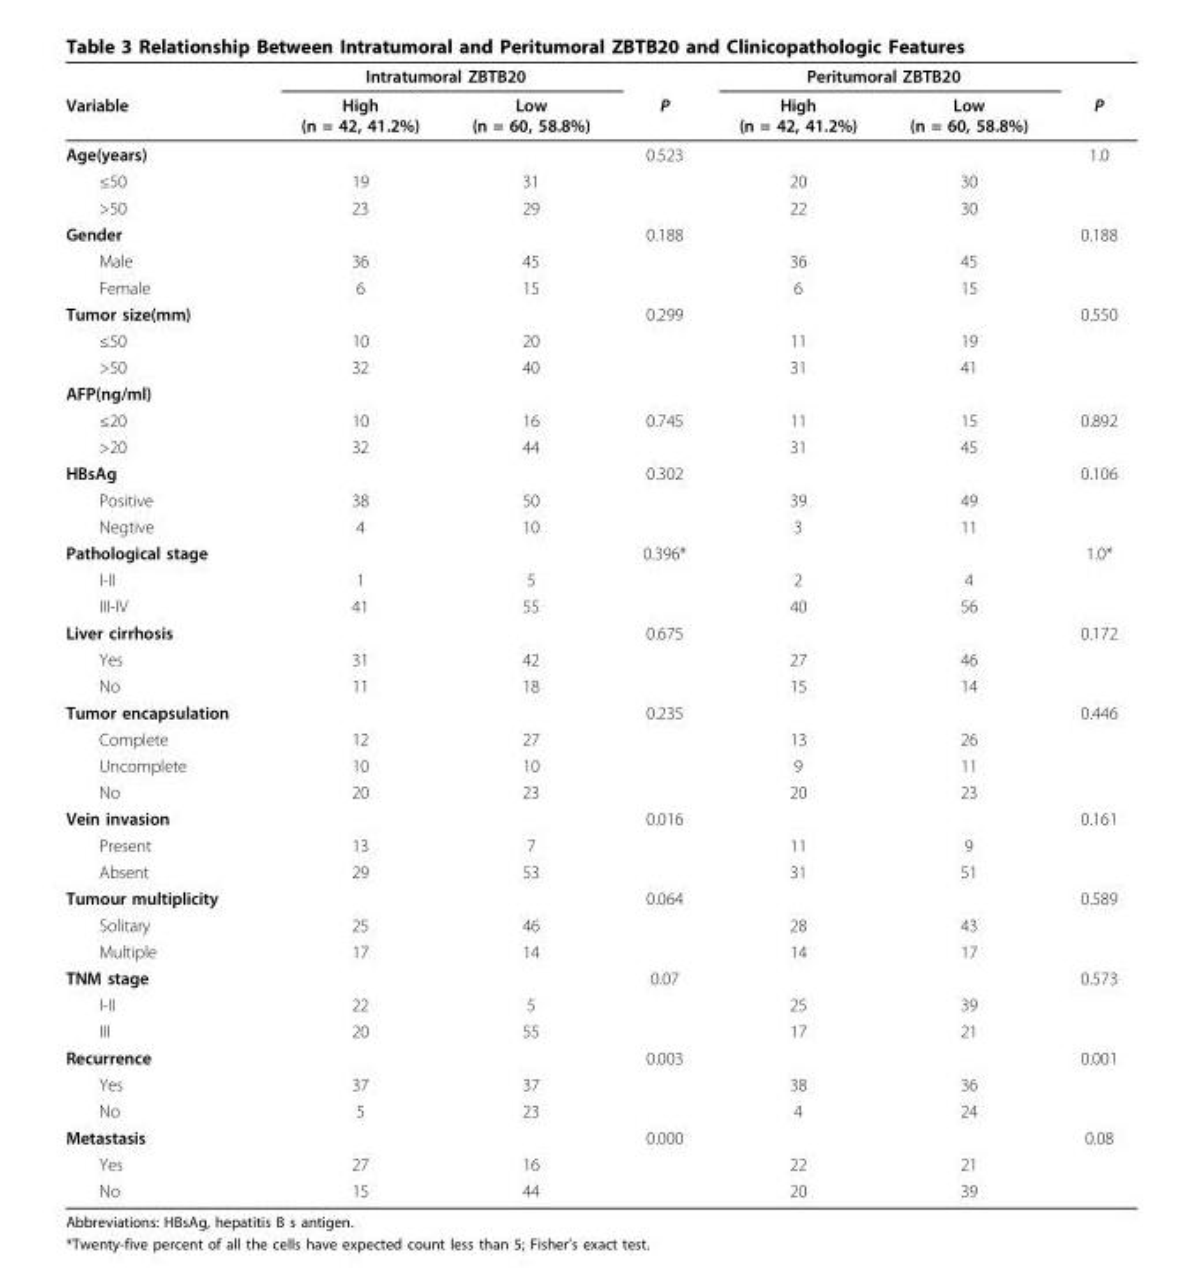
<table><thead><tr><td rowspan="2">Variable</td><td colspan="2">Intratumoral ZBTB20</td><td rowspan="2">P</td><td colspan="2">Peritumoral ZBTB20</td><td rowspan="2">P</td></tr><tr><td>High (n = 42, 41.2%)</td><td>Low (n = 60, 58.8%)</td><td>High (n = 42, 41.2%)</td><td>Low (n = 60, 58.8%)</td></tr></thead><tbody><tr><td>Age(years)</td><td></td><td></td><td>0.523</td><td></td><td></td><td>1.0</td></tr><tr><td>≤50</td><td>19</td><td>31</td><td></td><td>20</td><td>30</td><td></td></tr><tr><td>&gt;50</td><td>23</td><td>29</td><td></td><td>22</td><td>30</td><td></td></tr><tr><td>Gender</td><td></td><td></td><td>0.188</td><td></td><td></td><td>0.188</td></tr><tr><td>Male</td><td>36</td><td>45</td><td></td><td>36</td><td>45</td><td></td></tr><tr><td>Female</td><td>6</td><td>15</td><td></td><td>6</td><td>15</td><td></td></tr><tr><td>Tumor size(mm)</td><td></td><td></td><td>0.299</td><td></td><td></td><td>0.550</td></tr><tr><td>≤50</td><td>10</td><td>20</td><td></td><td>11</td><td>19</td><td></td></tr><tr><td>&gt;50</td><td>32</td><td>40</td><td></td><td>31</td><td>41</td><td></td></tr><tr><td colspan="7">AFP(ng/ml)</td></tr><tr><td>≤20</td><td>10</td><td>16</td><td>0.745</td><td>11</td><td>15</td><td>0.892</td></tr><tr><td>&gt;20</td><td>32</td><td>44</td><td></td><td>31</td><td>45</td><td></td></tr><tr><td>HBsAg</td><td></td><td></td><td>0.302</td><td></td><td></td><td>0.106</td></tr><tr><td>Positive</td><td>38</td><td>50</td><td></td><td>39</td><td>49</td><td></td></tr><tr><td>Negtive</td><td>4</td><td>10</td><td></td><td>3</td><td>11</td><td></td></tr><tr><td>Pathological stage</td><td></td><td></td><td>0.396*</td><td></td><td></td><td>1.0*</td></tr><tr><td>I-II</td><td>1</td><td>5</td><td></td><td>2</td><td>4</td><td></td></tr><tr><td>III-IV</td><td>41</td><td>55</td><td></td><td>40</td><td>56</td><td></td></tr><tr><td>Liver cirrhosis</td><td></td><td></td><td>0.675</td><td></td><td></td><td>0.172</td></tr><tr><td>Yes</td><td>31</td><td>42</td><td></td><td>27</td><td>46</td><td></td></tr><tr><td>No</td><td>11</td><td>18</td><td></td><td>15</td><td>14</td><td></td></tr><tr><td>Tumor encapsulation</td><td></td><td></td><td>0.235</td><td></td><td></td><td>0.446</td></tr><tr><td>Complete</td><td>12</td><td>27</td><td></td><td>13</td><td>26</td><td></td></tr><tr><td>Uncomplete</td><td>10</td><td>10</td><td></td><td>9</td><td>11</td><td></td></tr><tr><td>No</td><td>20</td><td>23</td><td></td><td>20</td><td>23</td><td></td></tr><tr><td>Vein invasion</td><td></td><td></td><td>0.016</td><td></td><td></td><td>0.161</td></tr><tr><td>Present</td><td>13</td><td>7</td><td></td><td>11</td><td>9</td><td></td></tr><tr><td>Absent</td><td>29</td><td>53</td><td></td><td>31</td><td>51</td><td></td></tr><tr><td>Tumour multiplicity</td><td></td><td></td><td>0.064</td><td></td><td></td><td>0.589</td></tr><tr><td>Solitary</td><td>25</td><td>46</td><td></td><td>28</td><td>43</td><td></td></tr><tr><td>Multiple</td><td>17</td><td>14</td><td></td><td>14</td><td>17</td><td></td></tr><tr><td>TNM stage</td><td></td><td></td><td>0.07</td><td></td><td></td><td>0.573</td></tr><tr><td>I-II</td><td>22</td><td>5</td><td></td><td>25</td><td>39</td><td></td></tr><tr><td>III</td><td>20</td><td>55</td><td></td><td>17</td><td>21</td><td></td></tr><tr><td>Recurrence</td><td></td><td></td><td>0.003</td><td></td><td></td><td>0.001</td></tr><tr><td>Yes</td><td>37</td><td>37</td><td></td><td>38</td><td>36</td><td></td></tr><tr><td>No</td><td>5</td><td>23</td><td></td><td>4</td><td>24</td><td></td></tr><tr><td>Metastasis</td><td></td><td></td><td>0.000</td><td></td><td></td><td>0.08</td></tr><tr><td>Yes</td><td>27</td><td>16</td><td></td><td>22</td><td>21</td><td></td></tr><tr><td>No</td><td>15</td><td>44</td><td></td><td>20</td><td>39</td><td></td></tr></tbody></table>